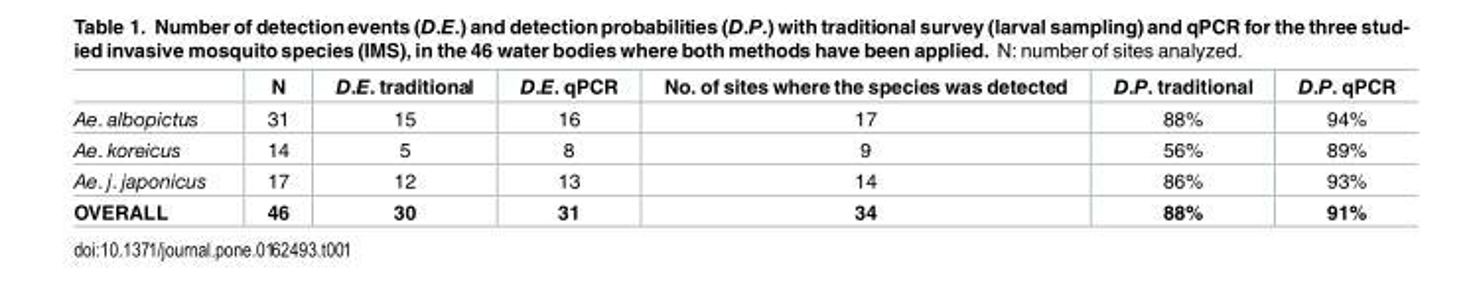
<table><thead><tr><td></td><td>N</td><td>D.E. traditional</td><td>D.E. qPCR</td><td>No. of sites where the species was detected</td><td>D.P. traditional</td><td>D.P. qPCR</td></tr></thead><tbody><tr><td>Ae. albopictus</td><td>31</td><td>15</td><td>16</td><td>17</td><td>88%</td><td>94%</td></tr><tr><td>Ae. koreicus</td><td>14</td><td>5</td><td>8</td><td>9</td><td>56%</td><td>89%</td></tr><tr><td>Ae. j. japonicus</td><td>17</td><td>12</td><td>13</td><td>14</td><td>86%</td><td>93%</td></tr><tr><td>OVERALL</td><td>46</td><td>30</td><td>31</td><td>34</td><td>88%</td><td>91%</td></tr></tbody></table>